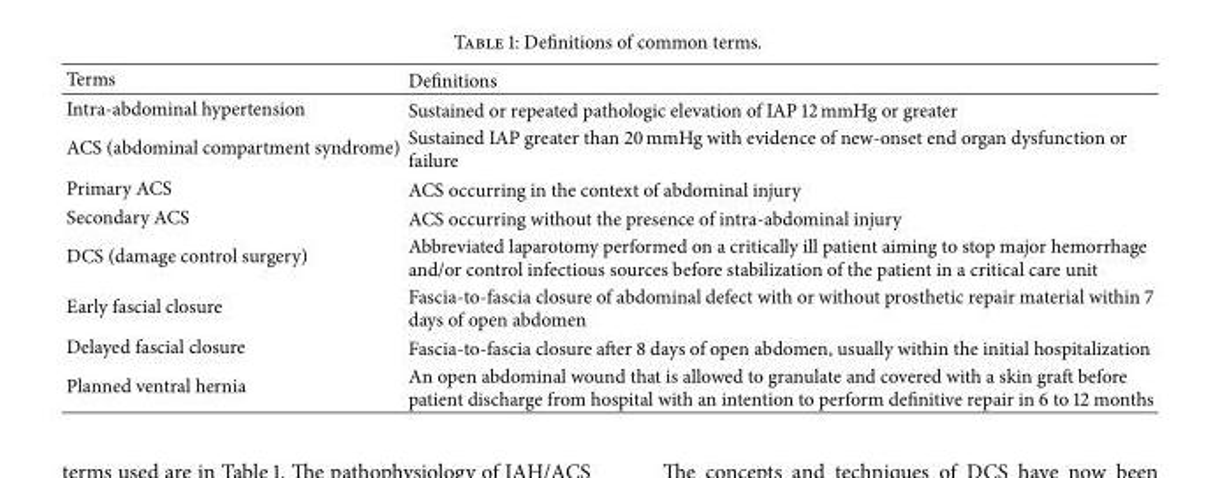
<table><thead><tr><td>Terms</td><td>Definitions</td></tr></thead><tbody><tr><td>Intra-abdominal hypertension</td><td>Sustained or repeated pathologic elevation of IAP 12 mmHg or greater</td></tr><tr><td>ACS (abdominal compartment syndrome)</td><td>Sustained IAP greater than 20 mmHg with evidence of new-onset end organ dysfunction or failure</td></tr><tr><td>Primary ACS</td><td>ACS occurring in the context of abdominal injury</td></tr><tr><td>Secondary ACS</td><td>ACS occurring without the presence of intra-abdominal injury</td></tr><tr><td>DCS (damage control surgery)</td><td>Abbreviated laparotomy performed on a critically ill patient aiming to stop major hemorrhage and/or control infectious sources before stabilization of the patient in a critical care unit</td></tr><tr><td>Early fascial closure</td><td>Fascia-to-fascia closure of abdominal defect with or without prosthetic repair material within 7 days of open abdomen</td></tr><tr><td>Delayed fascial closure</td><td>Fascia-to-fascia closure after 8 days of open abdomen, usually within the initial hospitalization</td></tr><tr><td>Planned ventral hernia</td><td>An open abdominal wound that is allowed to granulate and covered with a skin graft before patient discharge from hospital with an intention to perform definitive repair in 6 to 12 months</td></tr></tbody></table>